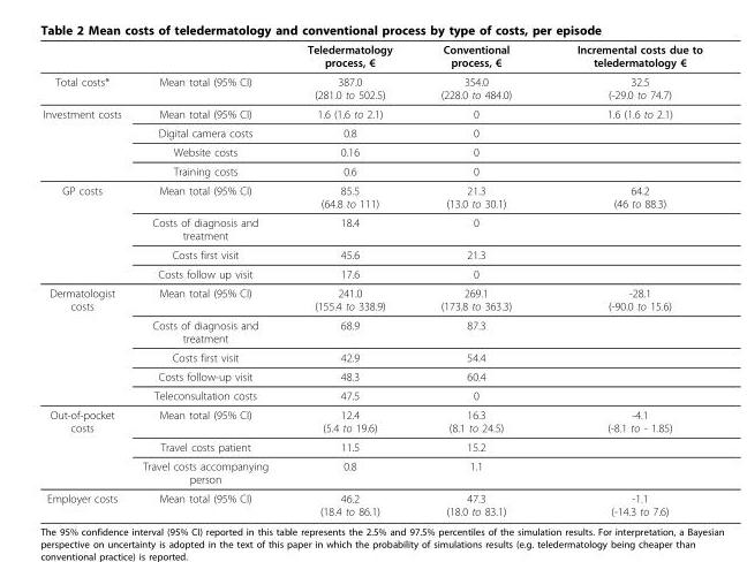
<table><thead><tr><td></td><td></td><td>Teledermatology process, €</td><td>Conventional process, €</td><td>Incremental costs due to teledermatology €</td></tr></thead><tbody><tr><td>Total costs*</td><td>Mean total (95% CI)</td><td>387.0 (281.0 to 502.5)</td><td>354.0 (228.0 to 484.0)</td><td>32.5 (-29.0 to 74.7)</td></tr><tr><td rowspan="4">Investment costs</td><td>Mean total (95% CI)</td><td>1.6 (1.6 to 2.1)</td><td>0</td><td>1.6 (1.6 to 2.1)</td></tr><tr><td>Digital camera costs</td><td>0.8</td><td>0</td><td></td></tr><tr><td>Website costs</td><td>0.16</td><td>0</td><td></td></tr><tr><td>Training costs</td><td>0.6</td><td>0</td><td></td></tr><tr><td rowspan="4">GP costs</td><td>Mean total (95% CI)</td><td>85.5 (64.8 to 111)</td><td>21.3 (13.0 to 30.1)</td><td>64.2 (46 to 88.3)</td></tr><tr><td>Costs of diagnosis and treatment</td><td>18.4</td><td>0</td><td></td></tr><tr><td>Costs first visit</td><td>45.6</td><td>21.3</td><td></td></tr><tr><td>Costs follow up visit</td><td>17.6</td><td>0</td><td></td></tr><tr><td rowspan="5">Dermatologist costs</td><td>Mean total (95% CI)</td><td>241.0 (155.4 to 338.9)</td><td>269.1 (173.8 to 363.3)</td><td>-28.1 (-90.0 to 15.6)</td></tr><tr><td>Costs of diagnosis and treatment</td><td>68.9</td><td>87.3</td><td></td></tr><tr><td>Costs first visit</td><td>42.9</td><td>54.4</td><td></td></tr><tr><td>Costs follow-up visit</td><td>48.3</td><td>60.4</td><td></td></tr><tr><td>Teleconsultation costs</td><td>47.5</td><td>0</td><td></td></tr><tr><td rowspan="3">Out-of-pocket costs</td><td>Mean total (95% CI)</td><td>12.4 (5.4 to 19.6)</td><td>16.3 (8.1 to 24.5)</td><td>-4.1 (-8.1 to - 1.85)</td></tr><tr><td>Travel costs patient</td><td>11.5</td><td>15.2</td><td></td></tr><tr><td>Travel costs accompanying person</td><td>0.8</td><td>1.1</td><td></td></tr><tr><td>Employer costs</td><td>Mean total (95% CI)</td><td>46.2 (18.4 to 86.1)</td><td>47.3 (18.0 to 83.1)</td><td>-1.1 (-14.3 to 7.6)</td></tr></tbody></table>